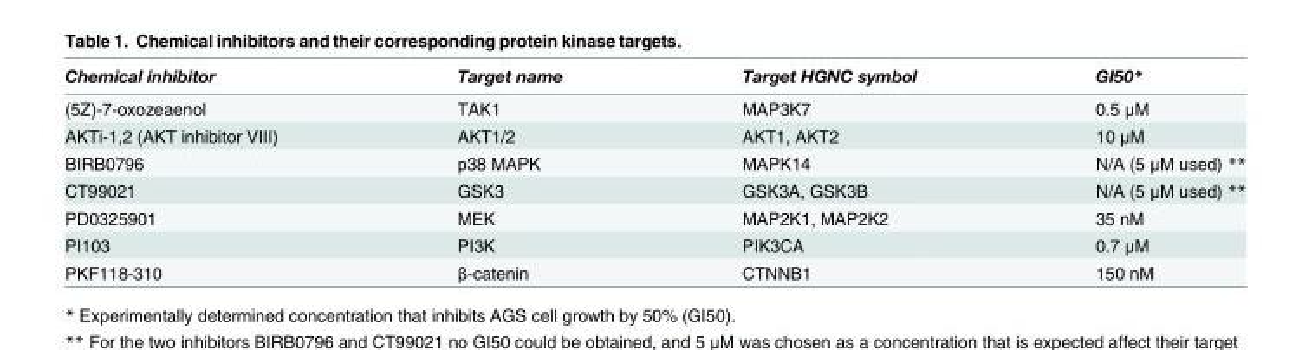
<table><thead><tr><td>Chemical inhibitor</td><td>Target name</td><td>Target HGNC symbol</td><td>GI50*</td></tr></thead><tbody><tr><td>(5Z)-7-oxozeaenol</td><td>TAK1</td><td>MAP3K7</td><td>0.5 μM</td></tr><tr><td>AKTi-1,2 (AKT inhibitor VIII)</td><td>AKT1/2</td><td>AKT1, AKT2</td><td>10 μM</td></tr><tr><td>BIRB0796</td><td>p38 MAPK</td><td>MAPK14</td><td>N/A (5 μM used) **</td></tr><tr><td>CT99021</td><td>GSK3</td><td>GSK3A, GSK3B</td><td>N/A (5 μM used) **</td></tr><tr><td>PD0325901</td><td>MEK</td><td>MAP2K1, MAP2K2</td><td>35 nM</td></tr><tr><td>PI103</td><td>PI3K</td><td>PIK3CA</td><td>0.7 μM</td></tr><tr><td>PKF118-310</td><td>β-catenin</td><td>CTNNB1</td><td>150 nM</td></tr></tbody></table>